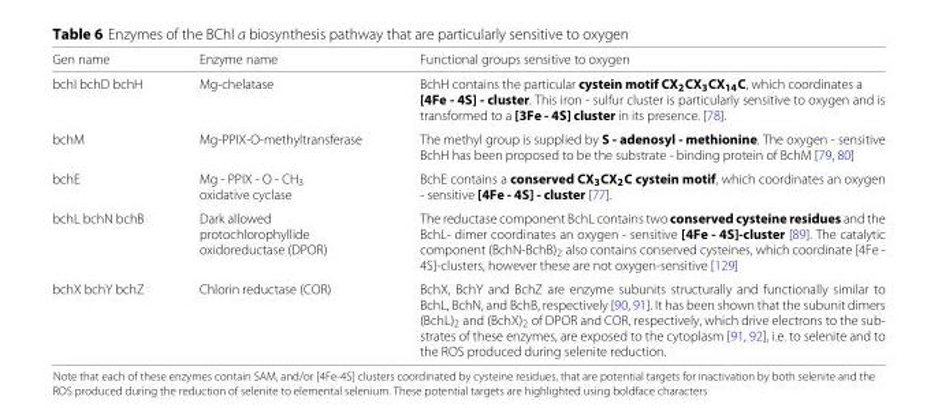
<table><thead><tr><td>Gen name</td><td>Enzyme name</td><td>Functional groups sensitive to oxygen</td></tr></thead><tbody><tr><td>bchI bchD bchH</td><td>Mg-chelatase</td><td>BchH contains the particular cystein motif CX<sub>2</sub>CX<sub>3</sub>CX<sub>14</sub>C, which coordinates a [4Fe - 4S] - cluster. This iron - sulfur cluster is particularly sensitive to oxygen and is transformed to a [3Fe - 4S] cluster in its presence. [78].</td></tr><tr><td>bchM</td><td>Mg-PPIX-O-methyltransferase</td><td>The methyl group is supplied by S - adenosyl - methionine. The oxygen - sensitive BchH has been proposed to be the substrate - binding protein of BchM [79, 80]</td></tr><tr><td>bchE</td><td>Mg - PPIX - O - CH<sub>3</sub> oxidative cyclase</td><td>BchE contains a conserved CX<sub>3</sub>CX<sub>2</sub>C cystein motif, which coordinates an oxygen - sensitive [4Fe - 4S] - cluster [77].</td></tr><tr><td>bchL bchN bchB</td><td>Dark allowed protochlorophyllide oxidoreductase (DPOR)</td><td>The reductase component BchL contains two conserved cysteine residues and the BchL- dimer coordinates an oxygen - sensitive [4Fe - 4S]-cluster [89]. The catalytic component (BchN-BchB)<sub>2</sub> also contains conserved cysteines, which coordinate [4Fe - 4S]-clusters, however these are not oxygen-sensitive [129]</td></tr><tr><td>bchX bchY bchZ</td><td>Chlorin reductase (COR)</td><td>BchX, BchY and BchZ are enzyme subunits structurally and functionally similar to BchL, BchN, and BchB, respectively [90, 91]. It has been shown that the subunit dimers (BchL)2 and (BchX)2 of DPOR and COR, respectively, which drive electrons to the sub- strates of these enzymes, are exposed to the cytoplasm [91, 92], i.e. to selenite and to the ROS produced during selenite reduction.</td></tr></tbody></table>